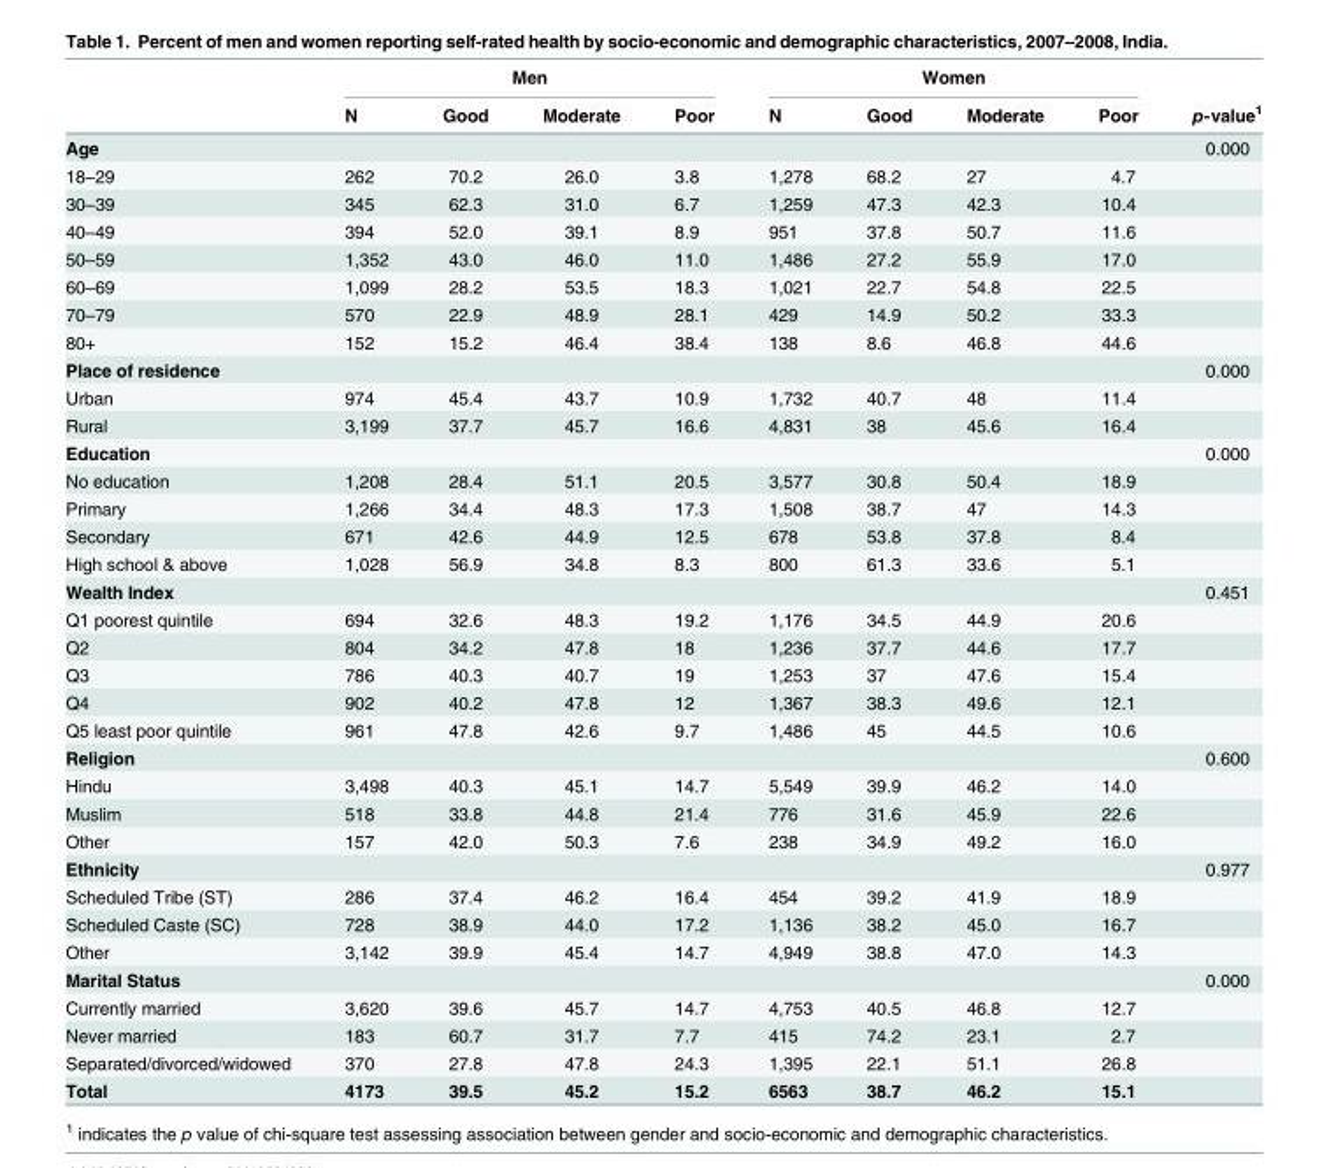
<table><thead><tr><td rowspan="2"></td><td colspan="4">Men</td><td colspan="4">Women</td><td rowspan="2">p-value<sup>1</sup></td></tr><tr><td>N</td><td>Good</td><td>Moderate</td><td>Poor</td><td>N</td><td>Good</td><td>Moderate</td><td>Poor</td></tr></thead><tbody><tr><td>Age</td><td></td><td></td><td></td><td></td><td></td><td></td><td></td><td></td><td>0.000</td></tr><tr><td>18–29</td><td>262</td><td>70.2</td><td>26.0</td><td>3.8</td><td>1,278</td><td>68.2</td><td>27</td><td>4.7</td><td></td></tr><tr><td>30–39</td><td>345</td><td>62.3</td><td>31.0</td><td>6.7</td><td>1,259</td><td>47.3</td><td>42.3</td><td>10.4</td><td></td></tr><tr><td>40–49</td><td>394</td><td>52.0</td><td>39.1</td><td>8.9</td><td>951</td><td>37.8</td><td>50.7</td><td>11.6</td><td></td></tr><tr><td>50–59</td><td>1,352</td><td>43.0</td><td>46.0</td><td>11.0</td><td>1,486</td><td>27.2</td><td>55.9</td><td>17.0</td><td></td></tr><tr><td>60–69</td><td>1,099</td><td>28.2</td><td>53.5</td><td>18.3</td><td>1,021</td><td>22.7</td><td>54.8</td><td>22.5</td><td></td></tr><tr><td>70–79</td><td>570</td><td>22.9</td><td>48.9</td><td>28.1</td><td>429</td><td>14.9</td><td>50.2</td><td>33.3</td><td></td></tr><tr><td>80+</td><td>152</td><td>15.2</td><td>46.4</td><td>38.4</td><td>138</td><td>8.6</td><td>46.8</td><td>44.6</td><td></td></tr><tr><td>Place of residence</td><td></td><td></td><td></td><td></td><td></td><td></td><td></td><td></td><td>0.000</td></tr><tr><td>Urban</td><td>974</td><td>45.4</td><td>43.7</td><td>10.9</td><td>1,732</td><td>40.7</td><td>48</td><td>11.4</td><td></td></tr><tr><td>Rural</td><td>3,199</td><td>37.7</td><td>45.7</td><td>16.6</td><td>4,831</td><td>38</td><td>45.6</td><td>16.4</td><td></td></tr><tr><td>Education</td><td></td><td></td><td></td><td></td><td></td><td></td><td></td><td></td><td>0.000</td></tr><tr><td>No education</td><td>1,208</td><td>28.4</td><td>51.1</td><td>20.5</td><td>3,577</td><td>30.8</td><td>50.4</td><td>18.9</td><td></td></tr><tr><td>Primary</td><td>1,266</td><td>34.4</td><td>48.3</td><td>17.3</td><td>1,508</td><td>38.7</td><td>47</td><td>14.3</td><td></td></tr><tr><td>Secondary</td><td>671</td><td>42.6</td><td>44.9</td><td>12.5</td><td>678</td><td>53.8</td><td>37.8</td><td>8.4</td><td></td></tr><tr><td>High school &amp; above</td><td>1,028</td><td>56.9</td><td>34.8</td><td>8.3</td><td>800</td><td>61.3</td><td>33.6</td><td>5.1</td><td></td></tr><tr><td>Wealth Index</td><td></td><td></td><td></td><td></td><td></td><td></td><td></td><td></td><td>0.451</td></tr><tr><td>Q1 poorest quintile</td><td>694</td><td>32.6</td><td>48.3</td><td>19.2</td><td>1,176</td><td>34.5</td><td>44.9</td><td>20.6</td><td></td></tr><tr><td>Q2</td><td>804</td><td>34.2</td><td>47.8</td><td>18</td><td>1,236</td><td>37.7</td><td>44.6</td><td>17.7</td><td></td></tr><tr><td>Q3</td><td>786</td><td>40.3</td><td>40.7</td><td>19</td><td>1,253</td><td>37</td><td>47.6</td><td>15.4</td><td></td></tr><tr><td>Q4</td><td>902</td><td>40.2</td><td>47.8</td><td>12</td><td>1,367</td><td>38.3</td><td>49.6</td><td>12.1</td><td></td></tr><tr><td>Q5 least poor quintile</td><td>961</td><td>47.8</td><td>42.6</td><td>9.7</td><td>1,486</td><td>45</td><td>44.5</td><td>10.6</td><td></td></tr><tr><td>Religion</td><td></td><td></td><td></td><td></td><td></td><td></td><td></td><td></td><td>0.600</td></tr><tr><td>Hindu</td><td>3,498</td><td>40.3</td><td>45.1</td><td>14.7</td><td>5,549</td><td>39.9</td><td>46.2</td><td>14.0</td><td></td></tr><tr><td>Muslim</td><td>518</td><td>33.8</td><td>44.8</td><td>21.4</td><td>776</td><td>31.6</td><td>45.9</td><td>22.6</td><td></td></tr><tr><td>Other</td><td>157</td><td>42.0</td><td>50.3</td><td>7.6</td><td>238</td><td>34.9</td><td>49.2</td><td>16.0</td><td></td></tr><tr><td>Ethnicity</td><td></td><td></td><td></td><td></td><td></td><td></td><td></td><td></td><td>0.977</td></tr><tr><td>Scheduled Tribe (ST)</td><td>286</td><td>37.4</td><td>46.2</td><td>16.4</td><td>454</td><td>39.2</td><td>41.9</td><td>18.9</td><td></td></tr><tr><td>Scheduled Caste (SC)</td><td>728</td><td>38.9</td><td>44.0</td><td>17.2</td><td>1,136</td><td>38.2</td><td>45.0</td><td>16.7</td><td></td></tr><tr><td>Other</td><td>3,142</td><td>39.9</td><td>45.4</td><td>14.7</td><td>4,949</td><td>38.8</td><td>47.0</td><td>14.3</td><td></td></tr><tr><td>Marital Status</td><td></td><td></td><td></td><td></td><td></td><td></td><td></td><td></td><td>0.000</td></tr><tr><td>Currently married</td><td>3,620</td><td>39.6</td><td>45.7</td><td>14.7</td><td>4,753</td><td>40.5</td><td>46.8</td><td>12.7</td><td></td></tr><tr><td>Never married</td><td>183</td><td>60.7</td><td>31.7</td><td>7.7</td><td>415</td><td>74.2</td><td>23.1</td><td>2.7</td><td></td></tr><tr><td>Separated/divorced/widowed</td><td>370</td><td>27.8</td><td>47.8</td><td>24.3</td><td>1,395</td><td>22.1</td><td>51.1</td><td>26.8</td><td></td></tr><tr><td>Total</td><td>4173</td><td>39.5</td><td>45.2</td><td>15.2</td><td>6563</td><td>38.7</td><td>46.2</td><td>15.1</td><td></td></tr></tbody></table>